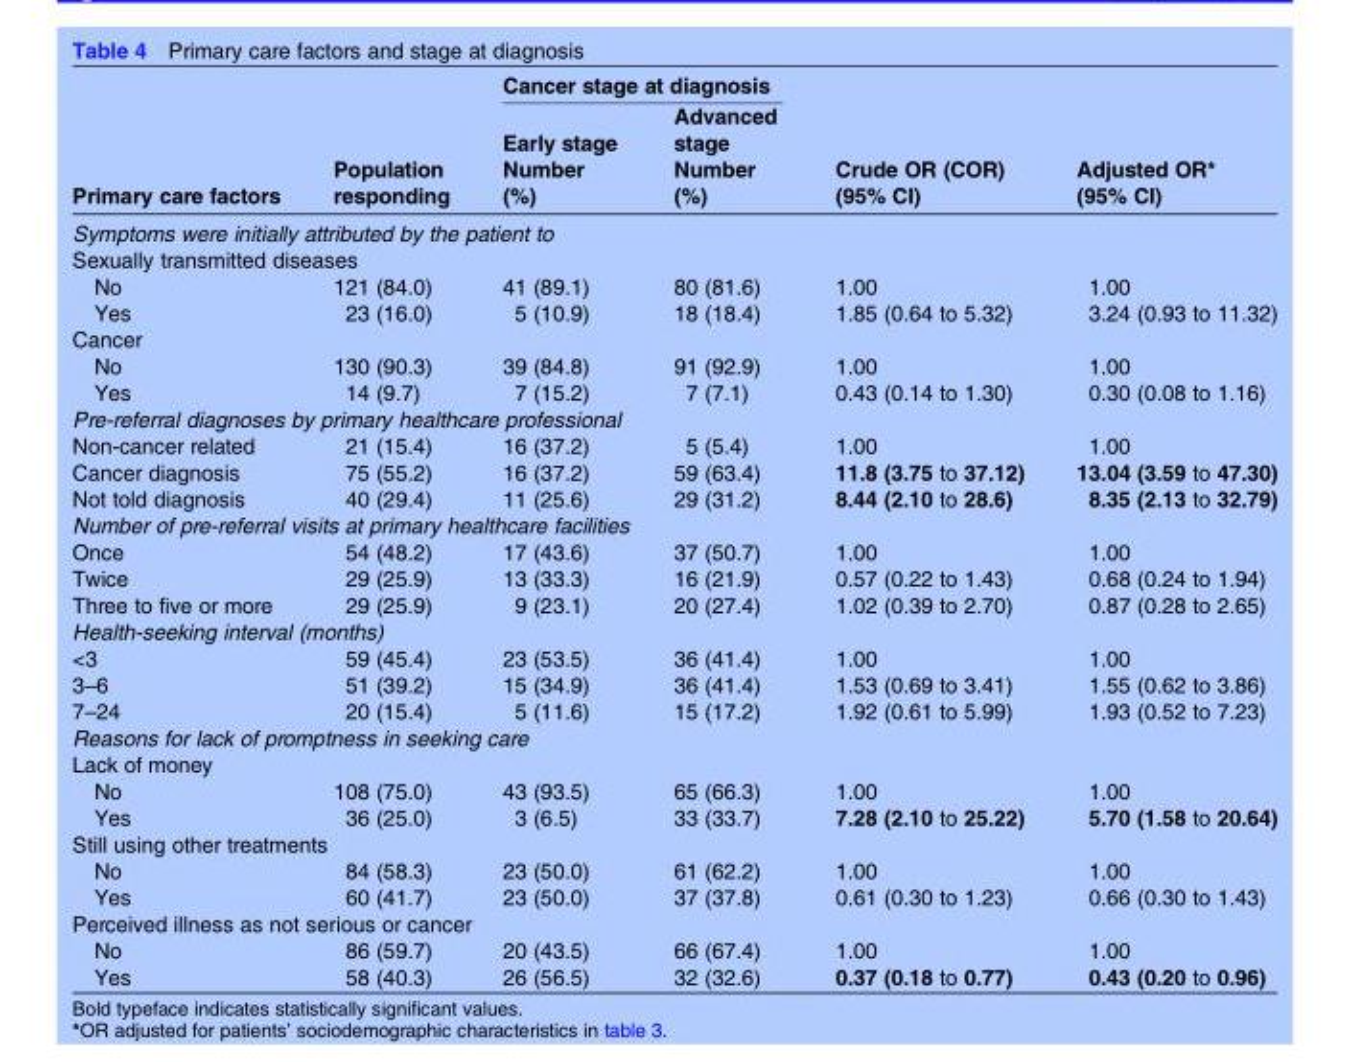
<table><thead><tr><td rowspan="3">Primary care factors</td><td rowspan="3">Population responding</td><td colspan="2">Cancer stage at diagnosis</td><td rowspan="3">Crude OR (COR) (95% CI)</td><td rowspan="3">Adjusted OR* (95% CI)</td></tr><tr><td rowspan="2">Early stage Number (%)</td><td rowspan="2">Advanced stage Number (%)</td></tr><tr></tr></thead><tbody><tr><td colspan="6">Symptoms were initially attributed by the patient to</td></tr><tr><td colspan="6">Sexually transmitted diseases</td></tr><tr><td>No</td><td>121 (84.0)</td><td>41 (89.1)</td><td>80 (81.6)</td><td>1.00</td><td>1.00</td></tr><tr><td>Yes</td><td>23 (16.0)</td><td>5 (10.9)</td><td>18 (18.4)</td><td>1.85 (0.64 to 5.32)</td><td>3.24 (0.93 to 11.32)</td></tr><tr><td colspan="6">Cancer</td></tr><tr><td>No</td><td>130 (90.3)</td><td>39 (84.8)</td><td>91 (92.9)</td><td>1.00</td><td>1.00</td></tr><tr><td>Yes</td><td>14 (9.7)</td><td>7 (15.2)</td><td>7 (7.1)</td><td>0.43 (0.14 to 1.30)</td><td>0.30 (0.08 to 1.16)</td></tr><tr><td colspan="6">Pre-referral diagnoses by primary healthcare professional</td></tr><tr><td>Non-cancer related</td><td>21 (15.4)</td><td>16 (37.2)</td><td>5 (5.4)</td><td>1.00</td><td>1.00</td></tr><tr><td>Cancer diagnosis</td><td>75 (55.2)</td><td>16 (37.2)</td><td>59 (63.4)</td><td>11.8 (3.75 to 37.12)</td><td>13.04 (3.59 to 47.30)</td></tr><tr><td>Not told diagnosis</td><td>40 (29.4)</td><td>11 (25.6)</td><td>29 (31.2)</td><td>8.44 (2.10 to 28.6)</td><td>8.35 (2.13 to 32.79)</td></tr><tr><td colspan="6">Number of pre-referral visits at primary healthcare facilities</td></tr><tr><td>Once</td><td>54 (48.2)</td><td>17 (43.6)</td><td>37 (50.7)</td><td>1.00</td><td>1.00</td></tr><tr><td>Twice</td><td>29 (25.9)</td><td>13 (33.3)</td><td>16 (21.9)</td><td>0.57 (0.22 to 1.43)</td><td>0.68 (0.24 to 1.94)</td></tr><tr><td>Three to five or more</td><td>29 (25.9)</td><td>9 (23.1)</td><td>20 (27.4)</td><td>1.02 (0.39 to 2.70)</td><td>0.87 (0.28 to 2.65)</td></tr><tr><td colspan="6">Health-seeking interval (months)</td></tr><tr><td>&lt;3</td><td>59 (45.4)</td><td>23 (53.5)</td><td>36 (41.4)</td><td>1.00</td><td>1.00</td></tr><tr><td>3–6</td><td>51 (39.2)</td><td>15 (34.9)</td><td>36 (41.4)</td><td>1.53 (0.69 to 3.41)</td><td>1.55 (0.62 to 3.86)</td></tr><tr><td>7–24</td><td>20 (15.4)</td><td>5 (11.6)</td><td>15 (17.2)</td><td>1.92 (0.61 to 5.99)</td><td>1.93 (0.52 to 7.23)</td></tr><tr><td colspan="6">Reasons for lack of promptness in seeking care</td></tr><tr><td colspan="6">Lack of money</td></tr><tr><td>No</td><td>108 (75.0)</td><td>43 (93.5)</td><td>65 (66.3)</td><td>1.00</td><td>1.00</td></tr><tr><td>Yes</td><td>36 (25.0)</td><td>3 (6.5)</td><td>33 (33.7)</td><td>7.28 (2.10 to 25.22)</td><td>5.70 (1.58 to 20.64)</td></tr><tr><td colspan="6">Still using other treatments</td></tr><tr><td>No</td><td>84 (58.3)</td><td>23 (50.0)</td><td>61 (62.2)</td><td>1.00</td><td>1.00</td></tr><tr><td>Yes</td><td>60 (41.7)</td><td>23 (50.0)</td><td>37 (37.8)</td><td>0.61 (0.30 to 1.23)</td><td>0.66 (0.30 to 1.43)</td></tr><tr><td colspan="6">Perceived illness as not serious or cancer</td></tr><tr><td>No</td><td>86 (59.7)</td><td>20 (43.5)</td><td>66 (67.4)</td><td>1.00</td><td>1.00</td></tr><tr><td>Yes</td><td>58 (40.3)</td><td>26 (56.5)</td><td>32 (32.6)</td><td>0.37 (0.18 to 0.77)</td><td>0.43 (0.20 to 0.96)</td></tr></tbody></table>